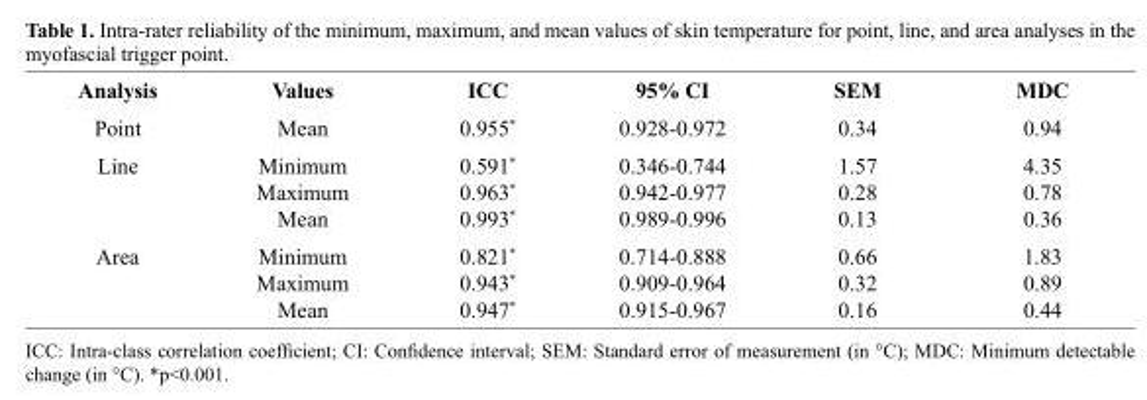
<table><thead><tr><td>Analysis</td><td>Values</td><td>ICC</td><td>95% CI</td><td>SEM</td><td>MDC</td></tr></thead><tbody><tr><td>Point</td><td>Mean</td><td>0.955*</td><td>0.928-0.972</td><td>0.34</td><td>0.94</td></tr><tr><td>Line</td><td>Minimum Maximum Mean</td><td>0.591* 0.963* 0.993*</td><td>0.346-0.744 0.942-0.977 0.989-0.996</td><td>1.57 0.28 0.13</td><td>4.35 0.78 0.36</td></tr><tr><td>Area</td><td>Minimum Maximum Mean</td><td>0.821* 0.943* 0.947*</td><td>0.714-0.888 0.909-0.964 0.915-0.967</td><td>0.66 0.32 0.16</td><td>1.83 0.89 0.44</td></tr></tbody></table>